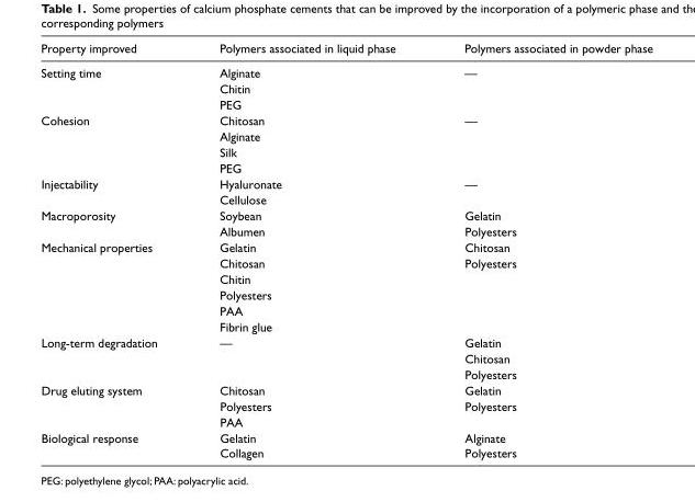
<table><thead><tr><td>Property improved</td><td>Polymers associated in liquid phase</td><td>Polymers associated in powder phase</td></tr></thead><tbody><tr><td rowspan="3">Setting time</td><td>Alginate</td><td>—</td></tr><tr><td>Chitin</td><td></td></tr><tr><td>PEG</td><td></td></tr><tr><td rowspan="4">Cohesion</td><td>Chitosan</td><td>—</td></tr><tr><td>Alginate</td><td></td></tr><tr><td>Silk</td><td></td></tr><tr><td>PEG</td><td></td></tr><tr><td rowspan="2">Injectability</td><td>Hyaluronate</td><td>—</td></tr><tr><td>Cellulose</td><td></td></tr><tr><td rowspan="2">Macroporosity</td><td>Soybean</td><td>Gelatin</td></tr><tr><td>Albumen</td><td>Polyesters</td></tr><tr><td rowspan="6">Mechanical properties</td><td>Gelatin</td><td>Chitosan</td></tr><tr><td>Chitosan</td><td>Polyesters</td></tr><tr><td>Chitin</td><td></td></tr><tr><td>Polyesters</td><td></td></tr><tr><td>PAA</td><td></td></tr><tr><td>Fibrin glue</td><td></td></tr><tr><td rowspan="3">Long-term degradation</td><td>—</td><td>Gelatin</td></tr><tr><td></td><td>Chitosan</td></tr><tr><td></td><td>Polyesters</td></tr><tr><td rowspan="3">Drug eluting system</td><td>Chitosan</td><td>Gelatin</td></tr><tr><td>Polyesters</td><td>Polyesters</td></tr><tr><td>PAA</td><td></td></tr><tr><td rowspan="2">Biological response</td><td>Gelatin</td><td>Alginate</td></tr><tr><td>Collagen</td><td>Polyesters</td></tr></tbody></table>